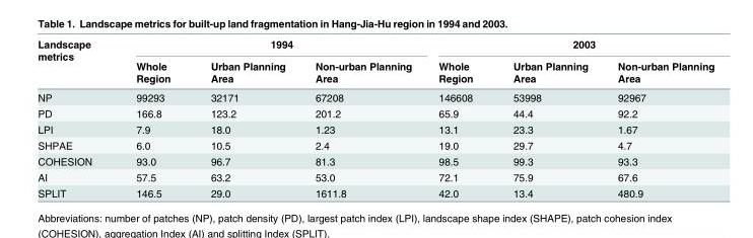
<table><thead><tr><td rowspan="2">Landscape metrics</td><td colspan="3">1994</td><td colspan="3">2003</td></tr><tr><td>Whole Region</td><td>Urban Planning Area</td><td>Non-urban Planning Area</td><td>Whole Region</td><td>Urban Planning Area</td><td>Non-urban Planning Area</td></tr></thead><tbody><tr><td>NP</td><td>99293</td><td>32171</td><td>67208</td><td>146608</td><td>53998</td><td>92967</td></tr><tr><td>PD</td><td>166.8</td><td>123.2</td><td>201.2</td><td>65.9</td><td>44.4</td><td>92.2</td></tr><tr><td>LPI</td><td>7.9</td><td>18.0</td><td>1.23</td><td>13.1</td><td>23.3</td><td>1.67</td></tr><tr><td>SHPAE</td><td>6.0</td><td>10.5</td><td>2.4</td><td>19.0</td><td>29.7</td><td>4.7</td></tr><tr><td>COHESION</td><td>93.0</td><td>96.7</td><td>81.3</td><td>98.5</td><td>99.3</td><td>93.3</td></tr><tr><td>AI</td><td>57.5</td><td>63.2</td><td>53.0</td><td>72.1</td><td>75.9</td><td>67.6</td></tr><tr><td>SPLIT</td><td>146.5</td><td>29.0</td><td>1611.8</td><td>42.0</td><td>13.4</td><td>480.9</td></tr></tbody></table>